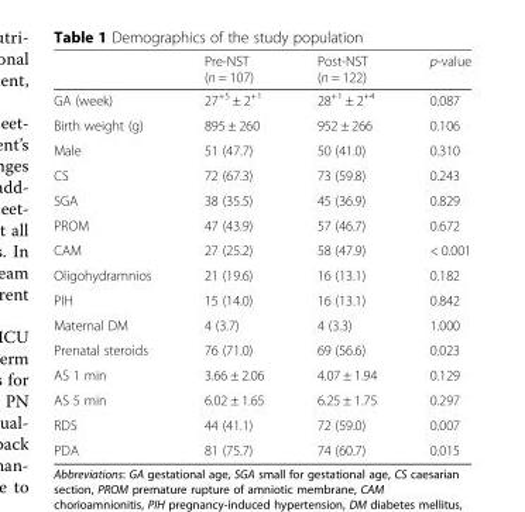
<table><thead><tr><td></td><td>Pre-NST (n = 107)</td><td>Post-NST (n = 122)</td><td>p-value</td></tr></thead><tbody><tr><td>GA (week)</td><td>27<sup>+5</sup> ± 2<sup>+1</sup></td><td>28<sup>+1</sup> ± 2<sup>+4</sup></td><td>0.087</td></tr><tr><td>Birth weight (g)</td><td>895 ± 260</td><td>952 ± 266</td><td>0.106</td></tr><tr><td>Male</td><td>51 (47.7)</td><td>50 (41.0)</td><td>0.310</td></tr><tr><td>CS</td><td>72 (67.3)</td><td>73 (59.8)</td><td>0.243</td></tr><tr><td>SGA</td><td>38 (35.5)</td><td>45 (36.9)</td><td>0.829</td></tr><tr><td>PROM</td><td>47 (43.9)</td><td>57 (46.7)</td><td>0.672</td></tr><tr><td>CAM</td><td>27 (25.2)</td><td>58 (47.9)</td><td>&lt; 0.001</td></tr><tr><td>Oligohydramnios</td><td>21 (19.6)</td><td>16 (13.1)</td><td>0.182</td></tr><tr><td>PIH</td><td>15 (14.0)</td><td>16 (13.1)</td><td>0.842</td></tr><tr><td>Maternal DM</td><td>4 (3.7)</td><td>4 (3.3)</td><td>1.000</td></tr><tr><td>Prenatal steroids</td><td>76 (71.0)</td><td>69 (56.6)</td><td>0.023</td></tr><tr><td>AS 1 min</td><td>3.66 ± 2.06</td><td>4.07 ± 1.94</td><td>0.129</td></tr><tr><td>AS 5 min</td><td>6.02 ± 1.65</td><td>6.25 ± 1.75</td><td>0.297</td></tr><tr><td>RDS</td><td>44 (41.1)</td><td>72 (59.0)</td><td>0.007</td></tr><tr><td>PDA</td><td>81 (75.7)</td><td>74 (60.7)</td><td>0.015</td></tr></tbody></table>